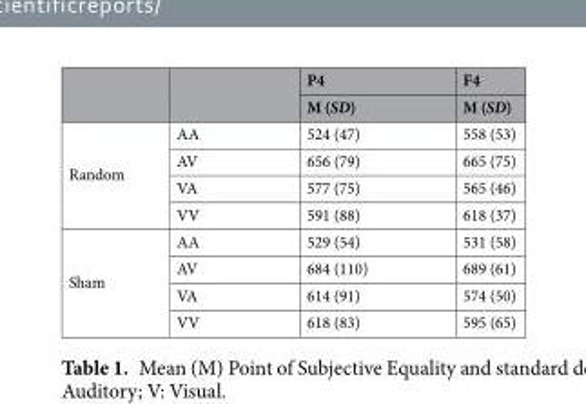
<table><thead><tr><td rowspan="2"></td><td rowspan="2"></td><td rowspan="2">P4 M (SD)</td><td rowspan="2">F4 M (SD)</td></tr><tr></tr></thead><tbody><tr><td rowspan="4">Random</td><td>AA</td><td>524 (47)</td><td>558 (53)</td></tr><tr><td>AV</td><td>656 (79)</td><td>665 (75)</td></tr><tr><td>VA</td><td>577 (75)</td><td>565 (46)</td></tr><tr><td>VV</td><td>591 (88)</td><td>618 (37)</td></tr><tr><td rowspan="4">Sham</td><td>AA</td><td>529 (54)</td><td>531 (58)</td></tr><tr><td>AV</td><td>684 (110)</td><td>689 (61)</td></tr><tr><td>VA</td><td>614 (91)</td><td>574 (50)</td></tr><tr><td>VV</td><td>618 (83)</td><td>595 (65)</td></tr></tbody></table>